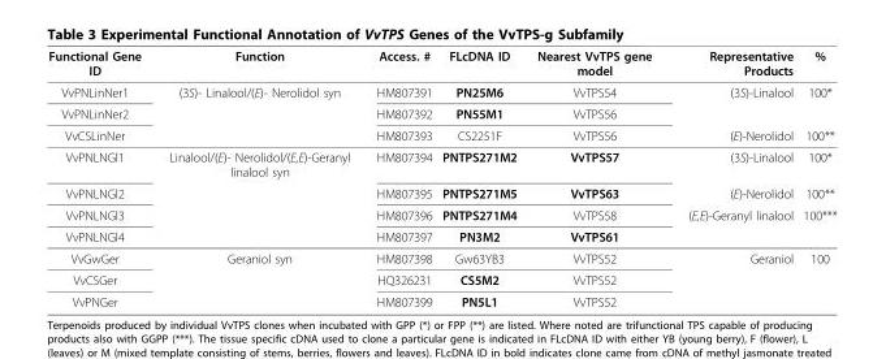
<table><thead><tr><td>Functional Gene ID</td><td>Function</td><td>Access. #</td><td>FLcDNA ID</td><td>Nearest VvTPS gene model</td><td>Representative Products</td><td>%</td></tr></thead><tbody><tr><td>VvPNLinNer1</td><td>(3S)- Linalool/(E)- Nerolidol syn</td><td>HM807391</td><td>PN25M6</td><td>VvTPS54</td><td>(3S)-Linalool</td><td>100*</td></tr><tr><td>VvPNLinNer2</td><td></td><td>HM807392</td><td>PN55M1</td><td>VvTPS56</td><td></td><td></td></tr><tr><td>VvCSLinNer</td><td></td><td>HM807393</td><td>CS2251F</td><td>VvTPS56</td><td>(E)-Nerolidol</td><td>100**</td></tr><tr><td>VvPNLNGl1</td><td>Linalool/(E)- Nerolidol/(E,E)-Geranyl linalool syn</td><td>HM807394</td><td>PNTPS271M2</td><td>VvTPS57</td><td>(3S)-Linalool</td><td>100*</td></tr><tr><td>VvPNLNGl2</td><td></td><td>HM807395</td><td>PNTPS271M5</td><td>VvTPS63</td><td>(E)-Nerolidol</td><td>100**</td></tr><tr><td>VvPNLNGl3</td><td></td><td>HM807396</td><td>PNTPS271M4</td><td>VvTPS58</td><td>(E,E)-Geranyl linalool</td><td>100***</td></tr><tr><td>VvPNLNGl4</td><td></td><td>HM807397</td><td>PN3M2</td><td>VvTPS61</td><td></td><td></td></tr><tr><td>VvGwGer</td><td>Geraniol syn</td><td>HM807398</td><td>Gw63YB3</td><td>VvTPS52</td><td>Geraniol</td><td>100</td></tr><tr><td>VvCSGer</td><td></td><td>HQ326231</td><td>CS5M2</td><td>VvTPS52</td><td></td><td></td></tr><tr><td>VvPNGer</td><td></td><td>HM807399</td><td>PN5L1</td><td>VvTPS52</td><td></td><td></td></tr></tbody></table>